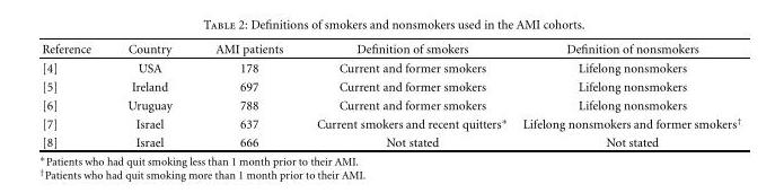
<table><thead><tr><td>Reference</td><td>Country</td><td>AMI patients</td><td>Definition of smokers</td><td>Definition of nonsmokers</td></tr></thead><tbody><tr><td>[4]</td><td>USA</td><td>178</td><td>Current and former smokers</td><td>Lifelong nonsmokers</td></tr><tr><td>[5]</td><td>Ireland</td><td>697</td><td>Current and former smokers</td><td>Lifelong nonsmokers</td></tr><tr><td>[6]</td><td>Uruguay</td><td>788</td><td>Current and former smokers</td><td>Lifelong nonsmokers</td></tr><tr><td>[7]</td><td>Israel</td><td>637</td><td>Current smokers and recent quitters∗</td><td>Lifelong nonsmokers and former smokers<sup>†</sup></td></tr><tr><td>[8]</td><td>Israel</td><td>666</td><td>Not stated</td><td>Not stated</td></tr></tbody></table>